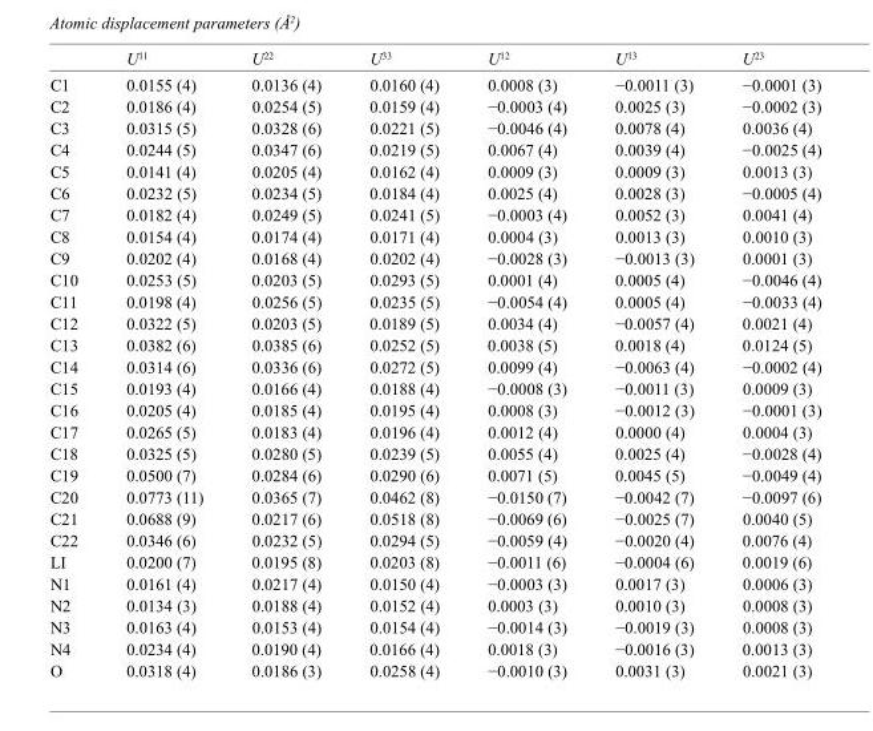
<table><thead><tr><td></td><td>U<sup>11</sup></td><td>U<sup>22</sup></td><td>U<sup>33</sup></td><td>U<sup>12</sup></td><td>U<sup>13</sup></td><td>U<sup>23</sup></td></tr></thead><tbody><tr><td>C1</td><td>0.0155 (4)</td><td>0.0136 (4)</td><td>0.0160 (4)</td><td>0.0008 (3)</td><td>−0.0011 (3)</td><td>−0.0001 (3)</td></tr><tr><td>C2</td><td>0.0186 (4)</td><td>0.0254 (5)</td><td>0.0159 (4)</td><td>−0.0003 (4)</td><td>0.0025 (3)</td><td>−0.0002 (3)</td></tr><tr><td>C3</td><td>0.0315 (5)</td><td>0.0328 (6)</td><td>0.0221 (5)</td><td>−0.0046 (4)</td><td>0.0078 (4)</td><td>0.0036 (4)</td></tr><tr><td>C4</td><td>0.0244 (5)</td><td>0.0347 (6)</td><td>0.0219 (5)</td><td>0.0067 (4)</td><td>0.0039 (4)</td><td>−0.0025 (4)</td></tr><tr><td>C5</td><td>0.0141 (4)</td><td>0.0205 (4)</td><td>0.0162 (4)</td><td>0.0009 (3)</td><td>0.0009 (3)</td><td>0.0013 (3)</td></tr><tr><td>C6</td><td>0.0232 (5)</td><td>0.0234 (5)</td><td>0.0184 (4)</td><td>0.0025 (4)</td><td>0.0028 (3)</td><td>−0.0005 (4)</td></tr><tr><td>C7</td><td>0.0182 (4)</td><td>0.0249 (5)</td><td>0.0241 (5)</td><td>−0.0003 (4)</td><td>0.0052 (3)</td><td>0.0041 (4)</td></tr><tr><td>C8</td><td>0.0154 (4)</td><td>0.0174 (4)</td><td>0.0171 (4)</td><td>0.0004 (3)</td><td>0.0013 (3)</td><td>0.0010 (3)</td></tr><tr><td>C9</td><td>0.0202 (4)</td><td>0.0168 (4)</td><td>0.0202 (4)</td><td>−0.0028 (3)</td><td>−0.0013 (3)</td><td>0.0001 (3)</td></tr><tr><td>C10</td><td>0.0253 (5)</td><td>0.0203 (5)</td><td>0.0293 (5)</td><td>0.0001 (4)</td><td>0.0005 (4)</td><td>−0.0046 (4)</td></tr><tr><td>C11</td><td>0.0198 (4)</td><td>0.0256 (5)</td><td>0.0235 (5)</td><td>−0.0054 (4)</td><td>0.0005 (4)</td><td>−0.0033 (4)</td></tr><tr><td>C12</td><td>0.0322 (5)</td><td>0.0203 (5)</td><td>0.0189 (5)</td><td>0.0034 (4)</td><td>−0.0057 (4)</td><td>0.0021 (4)</td></tr><tr><td>C13</td><td>0.0382 (6)</td><td>0.0385 (6)</td><td>0.0252 (5)</td><td>0.0038 (5)</td><td>0.0018 (4)</td><td>0.0124 (5)</td></tr><tr><td>C14</td><td>0.0314 (6)</td><td>0.0336 (6)</td><td>0.0272 (5)</td><td>0.0099 (4)</td><td>−0.0063 (4)</td><td>−0.0002 (4)</td></tr><tr><td>C15</td><td>0.0193 (4)</td><td>0.0166 (4)</td><td>0.0188 (4)</td><td>−0.0008 (3)</td><td>−0.0011 (3)</td><td>0.0009 (3)</td></tr><tr><td>C16</td><td>0.0205 (4)</td><td>0.0185 (4)</td><td>0.0195 (4)</td><td>0.0008 (3)</td><td>−0.0012 (3)</td><td>−0.0001 (3)</td></tr><tr><td>C17</td><td>0.0265 (5)</td><td>0.0183 (4)</td><td>0.0196 (4)</td><td>0.0012 (4)</td><td>0.0000 (4)</td><td>0.0004 (3)</td></tr><tr><td>C18</td><td>0.0325 (5)</td><td>0.0280 (5)</td><td>0.0239 (5)</td><td>0.0055 (4)</td><td>0.0025 (4)</td><td>−0.0028 (4)</td></tr><tr><td>C19</td><td>0.0500 (7)</td><td>0.0284 (6)</td><td>0.0290 (6)</td><td>0.0071 (5)</td><td>0.0045 (5)</td><td>−0.0049 (4)</td></tr><tr><td>C20</td><td>0.0773 (11)</td><td>0.0365 (7)</td><td>0.0462 (8)</td><td>−0.0150 (7)</td><td>−0.0042 (7)</td><td>−0.0097 (6)</td></tr><tr><td>C21</td><td>0.0688 (9)</td><td>0.0217 (6)</td><td>0.0518 (8)</td><td>−0.0069 (6)</td><td>−0.0025 (7)</td><td>0.0040 (5)</td></tr><tr><td>C22</td><td>0.0346 (6)</td><td>0.0232 (5)</td><td>0.0294 (5)</td><td>−0.0059 (4)</td><td>−0.0020 (4)</td><td>0.0076 (4)</td></tr><tr><td>LI</td><td>0.0200 (7)</td><td>0.0195 (8)</td><td>0.0203 (8)</td><td>−0.0011 (6)</td><td>−0.0004 (6)</td><td>0.0019 (6)</td></tr><tr><td>N1</td><td>0.0161 (4)</td><td>0.0217 (4)</td><td>0.0150 (4)</td><td>−0.0003 (3)</td><td>0.0017 (3)</td><td>0.0006 (3)</td></tr><tr><td>N2</td><td>0.0134 (3)</td><td>0.0188 (4)</td><td>0.0152 (4)</td><td>0.0003 (3)</td><td>0.0010 (3)</td><td>0.0008 (3)</td></tr><tr><td>N3</td><td>0.0163 (4)</td><td>0.0153 (4)</td><td>0.0154 (4)</td><td>−0.0014 (3)</td><td>−0.0019 (3)</td><td>0.0008 (3)</td></tr><tr><td>N4</td><td>0.0234 (4)</td><td>0.0190 (4)</td><td>0.0166 (4)</td><td>0.0018 (3)</td><td>−0.0016 (3)</td><td>0.0013 (3)</td></tr><tr><td>O</td><td>0.0318 (4)</td><td>0.0186 (3)</td><td>0.0258 (4)</td><td>−0.0010 (3)</td><td>0.0031 (3)</td><td>0.0021 (3)</td></tr></tbody></table>